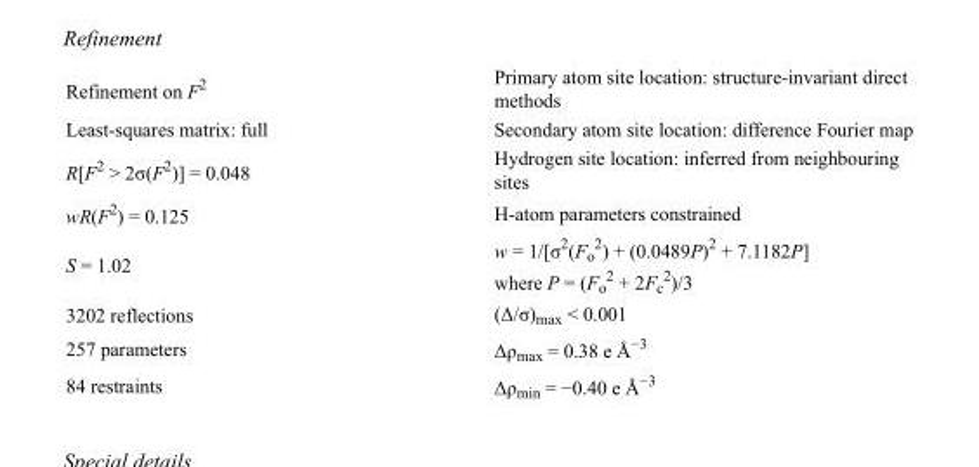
<table><tbody><tr><td>Refinement on F<sup>2</sup></td><td>Primary atom site location: structure-invariant direct methods</td></tr><tr><td>Least-squares matrix: full</td><td>Secondary atom site location: difference Fourier map</td></tr><tr><td>R[F<sup>2</sup> &gt; 2σ(F<sup>2</sup>)] = 0.048</td><td>Hydrogen site location: inferred from neighbouring sites</td></tr><tr><td>wR(F<sup>2</sup>) = 0.125</td><td>H-atom parameters constrained</td></tr><tr><td>S = 1.02</td><td>w = 1/[σ<sup>2</sup>(F<sub>o</sub> <sup>2</sup>) + (0.0489P)<sup>2</sup> + 7.1182P] where P = (F<sub>o</sub> <sup>2</sup> + 2F<sub>c</sub> <sup>2</sup>)/3</td></tr><tr><td>3202 reflections</td><td>(Δ/σ)<sub>max</sub> &lt; 0.001</td></tr><tr><td>257 parameters</td><td>Δρ<sub>max</sub> = 0.38 e Å<sup>−3</sup></td></tr><tr><td>84 restraints</td><td>Δρmin = −0.40 e Å−3</td></tr></tbody></table>